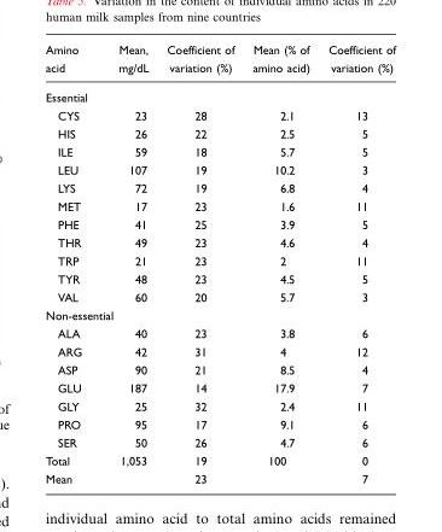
<table><thead><tr><td>Amino acid</td><td>Mean, mg/dL</td><td>Coefficient of variation (%)</td><td>Mean (% of amino acid)</td><td>Coefficient of variation (%)</td></tr></thead><tbody><tr><td colspan="5">Essential</td></tr><tr><td>CYS</td><td>23</td><td>28</td><td>2.1</td><td>13</td></tr><tr><td>HIS</td><td>26</td><td>22</td><td>2.5</td><td>5</td></tr><tr><td>ILE</td><td>59</td><td>18</td><td>5.7</td><td>5</td></tr><tr><td>LEU</td><td>107</td><td>19</td><td>10.2</td><td>3</td></tr><tr><td>LYS</td><td>72</td><td>19</td><td>6.8</td><td>4</td></tr><tr><td>MET</td><td>17</td><td>23</td><td>1.6</td><td>11</td></tr><tr><td>PHE</td><td>41</td><td>25</td><td>3.9</td><td>5</td></tr><tr><td>THR</td><td>49</td><td>23</td><td>4.6</td><td>4</td></tr><tr><td>TRP</td><td>21</td><td>23</td><td>2</td><td>11</td></tr><tr><td>TYR</td><td>48</td><td>23</td><td>4.5</td><td>5</td></tr><tr><td>VAL</td><td>60</td><td>20</td><td>5.7</td><td>3</td></tr><tr><td colspan="5">Non-essential</td></tr><tr><td>ALA</td><td>40</td><td>23</td><td>3.8</td><td>6</td></tr><tr><td>ARG</td><td>42</td><td>31</td><td>4</td><td>12</td></tr><tr><td>ASP</td><td>90</td><td>21</td><td>8.5</td><td>4</td></tr><tr><td>GLU</td><td>187</td><td>14</td><td>17.9</td><td>7</td></tr><tr><td>GLY</td><td>25</td><td>32</td><td>2.4</td><td>11</td></tr><tr><td>PRO</td><td>95</td><td>17</td><td>9.1</td><td>6</td></tr><tr><td>SER</td><td>50</td><td>26</td><td>4.7</td><td>6</td></tr><tr><td>Total</td><td>1,053</td><td>19</td><td>100</td><td>0</td></tr><tr><td>Mean</td><td></td><td>23</td><td></td><td>7</td></tr></tbody></table>